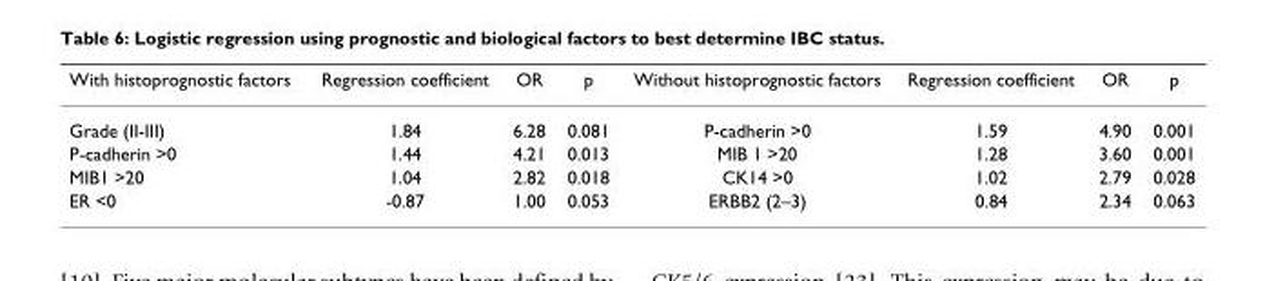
<table><thead><tr><td>With histoprognostic factors</td><td>Regression coefficient</td><td>OR</td><td>p</td><td>Without histoprognostic factors</td><td>Regression coefficient</td><td>OR</td><td>p</td></tr></thead><tbody><tr><td>Grade (II-III)</td><td>1.84</td><td>6.28</td><td>0.081</td><td>P-cadherin &gt;0</td><td>1.59</td><td>4.90</td><td>0.001</td></tr><tr><td>P-cadherin &gt;0</td><td>1.44</td><td>4.21</td><td>0.013</td><td>MIB 1 &gt;20</td><td>1.28</td><td>3.60</td><td>0.001</td></tr><tr><td>MIB1 &gt;20</td><td>1.04</td><td>2.82</td><td>0.018</td><td>CK14 &gt;0</td><td>1.02</td><td>2.79</td><td>0.028</td></tr><tr><td>ER &lt;0</td><td>-0.87</td><td>1.00</td><td>0.053</td><td>ERBB2 (2–3)</td><td>0.84</td><td>2.34</td><td>0.063</td></tr></tbody></table>